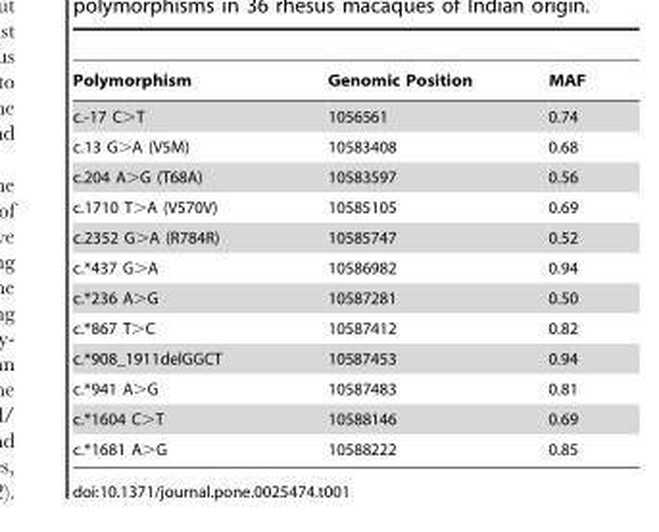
<table><thead><tr><td>Polymorphism</td><td>Genomic Position</td><td>MAF</td></tr></thead><tbody><tr><td>c.-17 C&gt;T</td><td>1056561</td><td>0.74</td></tr><tr><td>c.13 G&gt;A (V5M)</td><td>10583408</td><td>0.68</td></tr><tr><td>c.204 A&gt;G (T68A)</td><td>10583597</td><td>0.56</td></tr><tr><td>c.1710 T&gt;A (V570V)</td><td>10585105</td><td>0.69</td></tr><tr><td>c.2352 G&gt;A (R784R)</td><td>10585747</td><td>0.52</td></tr><tr><td>c.*437 G&gt;A</td><td>10586982</td><td>0.94</td></tr><tr><td>c.*236 A&gt;G</td><td>10587281</td><td>0.50</td></tr><tr><td>c.*867 T&gt;C</td><td>10587412</td><td>0.82</td></tr><tr><td>c.*908_1911delGGCT</td><td>10587453</td><td>0.94</td></tr><tr><td>c.*941 A&gt;G</td><td>10587483</td><td>0.81</td></tr><tr><td>c.*1604 C&gt;T</td><td>10588146</td><td>0.69</td></tr><tr><td>c.*1681 A&gt;G</td><td>10588222</td><td>0.85</td></tr></tbody></table>